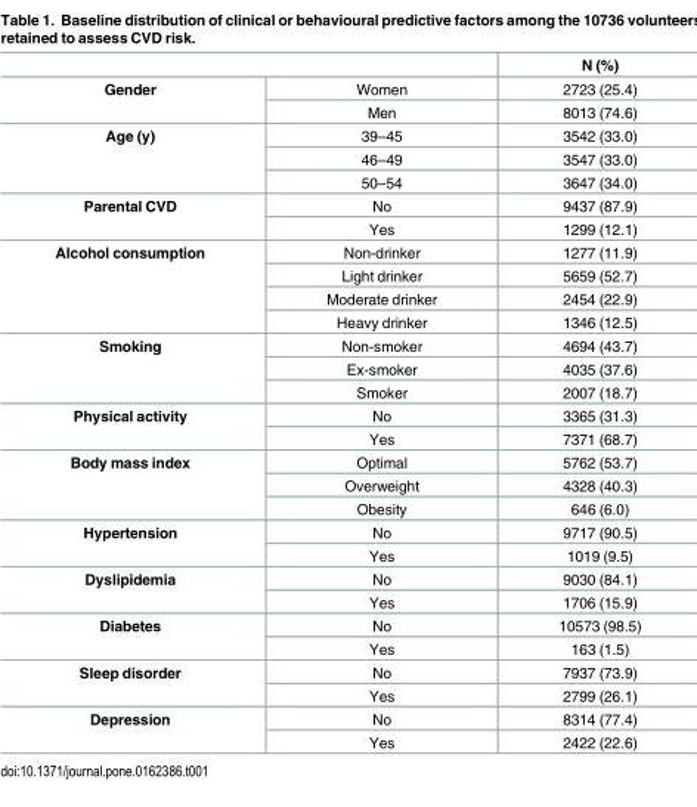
<table><thead><tr><td></td><td></td><td>N (%)</td></tr></thead><tbody><tr><td rowspan="2">Gender</td><td>Women</td><td>2723 (25.4)</td></tr><tr><td>Men</td><td>8013 (74.6)</td></tr><tr><td rowspan="3">Age (y)</td><td>39–45</td><td>3542 (33.0)</td></tr><tr><td>46–49</td><td>3547 (33.0)</td></tr><tr><td>50–54</td><td>3647 (34.0)</td></tr><tr><td rowspan="2">Parental CVD</td><td>No</td><td>9437 (87.9)</td></tr><tr><td>Yes</td><td>1299 (12.1)</td></tr><tr><td rowspan="4">Alcohol consumption</td><td>Non-drinker</td><td>1277 (11.9)</td></tr><tr><td>Light drinker</td><td>5659 (52.7)</td></tr><tr><td>Moderate drinker</td><td>2454 (22.9)</td></tr><tr><td>Heavy drinker</td><td>1346 (12.5)</td></tr><tr><td rowspan="3">Smoking</td><td>Non-smoker</td><td>4694 (43.7)</td></tr><tr><td>Ex-smoker</td><td>4035 (37.6)</td></tr><tr><td>Smoker</td><td>2007 (18.7)</td></tr><tr><td rowspan="2">Physical activity</td><td>No</td><td>3365 (31.3)</td></tr><tr><td>Yes</td><td>7371 (68.7)</td></tr><tr><td rowspan="3">Body mass index</td><td>Optimal</td><td>5762 (53.7)</td></tr><tr><td>Overweight</td><td>4328 (40.3)</td></tr><tr><td>Obesity</td><td>646 (6.0)</td></tr><tr><td rowspan="2">Hypertension</td><td>No</td><td>9717 (90.5)</td></tr><tr><td>Yes</td><td>1019 (9.5)</td></tr><tr><td rowspan="2">Dyslipidemia</td><td>No</td><td>9030 (84.1)</td></tr><tr><td>Yes</td><td>1706 (15.9)</td></tr><tr><td rowspan="2">Diabetes</td><td>No</td><td>10573 (98.5)</td></tr><tr><td>Yes</td><td>163 (1.5)</td></tr><tr><td rowspan="2">Sleep disorder</td><td>No</td><td>7937 (73.9)</td></tr><tr><td>Yes</td><td>2799 (26.1)</td></tr><tr><td rowspan="2">Depression</td><td>No</td><td>8314 (77.4)</td></tr><tr><td>Yes</td><td>2422 (22.6)</td></tr></tbody></table>